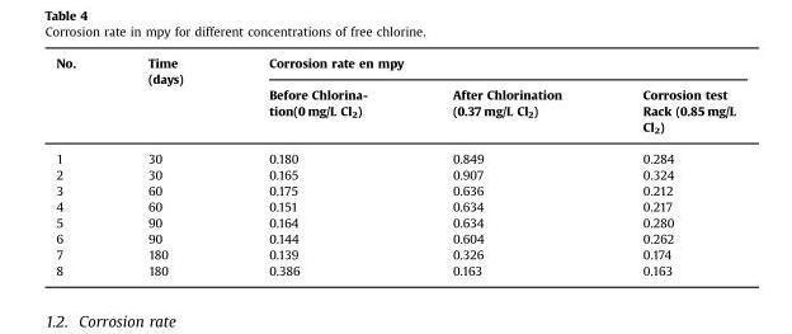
<table><thead><tr><td rowspan="2">No.</td><td rowspan="2">Time (days)</td><td colspan="3">Corrosion rate en mpy</td></tr><tr><td>Before Chlorina- tion(0 mg/L Cl2)</td><td>After Chlorination (0.37 mg/L Cl<sub>2</sub>)</td><td>Corrosion test Rack (0.85 mg/L Cl<sub>2</sub>)</td></tr></thead><tbody><tr><td>1</td><td>30</td><td>0.180</td><td>0.849</td><td>0.284</td></tr><tr><td>2</td><td>30</td><td>0.165</td><td>0.907</td><td>0.324</td></tr><tr><td>3</td><td>60</td><td>0.175</td><td>0.636</td><td>0.212</td></tr><tr><td>4</td><td>60</td><td>0.151</td><td>0.634</td><td>0.217</td></tr><tr><td>5</td><td>90</td><td>0.164</td><td>0.634</td><td>0.280</td></tr><tr><td>6</td><td>90</td><td>0.144</td><td>0.604</td><td>0.262</td></tr><tr><td>7</td><td>180</td><td>0.139</td><td>0.326</td><td>0.174</td></tr><tr><td>8</td><td>180</td><td>0.386</td><td>0.163</td><td>0.163</td></tr></tbody></table>